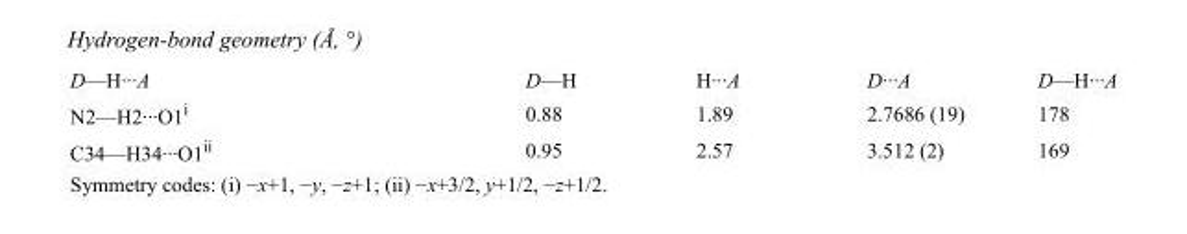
<table><tbody><tr><td>D—H···A</td><td>D—H</td><td>H···A</td><td>D···A</td><td>D—H···A</td></tr><tr><td>N2—H2···O1<sup>i</sup></td><td>0.88</td><td>1.89</td><td>2.7686 (19)</td><td>178</td></tr><tr><td>C34—H34···O1<sup>ii</sup></td><td>0.95</td><td>2.57</td><td>3.512 (2)</td><td>169</td></tr></tbody></table>